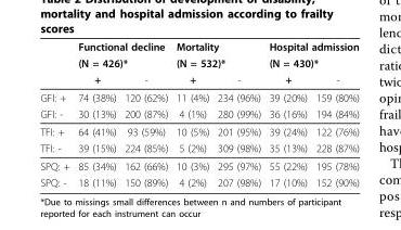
<table><thead><tr><td rowspan="3"></td><td rowspan="2" colspan="2">Functional decline (N = 426)*</td><td rowspan="2" colspan="2">Mortality (N = 532)*</td><td rowspan="2" colspan="2">Hospital admission (N = 430)*</td></tr><tr></tr><tr><td>+</td><td>-</td><td>+</td><td>-</td><td>+</td><td>-</td></tr></thead><tbody><tr><td>GFI: +</td><td>74 (38%)</td><td>120 (62%)</td><td>11 (4%)</td><td>234 (96%)</td><td>39 (20%)</td><td>159 (80%)</td></tr><tr><td>GFI: -</td><td>30 (13%)</td><td>200 (87%)</td><td>4 (1%)</td><td>280 (99%)</td><td>36 (16%)</td><td>194 (84%)</td></tr><tr><td>TFI: +</td><td>64 (41%)</td><td>93 (59%)</td><td>10 (5%)</td><td>201 (95%)</td><td>39 (24%)</td><td>122 (76%)</td></tr><tr><td>TFI: -</td><td>39 (15%)</td><td>224 (85%)</td><td>5 (2%)</td><td>309 (98%)</td><td>35 (13%)</td><td>228 (87%)</td></tr><tr><td>SPQ: +</td><td>85 (34%)</td><td>162 (66%)</td><td>10 (3%)</td><td>295 (97%)</td><td>55 (22%)</td><td>195 (78%)</td></tr><tr><td>SPQ: -</td><td>18 (11%)</td><td>150 (89%)</td><td>4 (2%)</td><td>207 (98%)</td><td>17 (10%)</td><td>152 (90%)</td></tr></tbody></table>